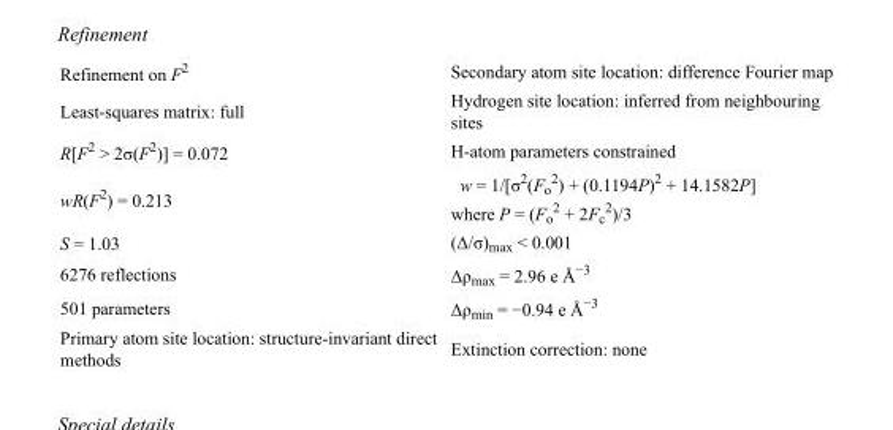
<table><tbody><tr><td>Refinement on F<sup>2</sup></td><td>Secondary atom site location: difference Fourier map</td></tr><tr><td>Least-squares matrix: full</td><td>Hydrogen site location: inferred from neighbouring sites</td></tr><tr><td>R[F<sup>2</sup> &gt; 2σ(F<sup>2</sup>)] = 0.072</td><td>H-atom parameters constrained</td></tr><tr><td>wR(F<sup>2</sup>) = 0.213</td><td>w = 1/[σ<sup>2</sup>(F<sub>o</sub> <sup>2</sup>) + (0.1194P)<sup>2</sup> + 14.1582P] where P = (F<sub>o</sub> <sup>2</sup> + 2F<sub>c</sub> <sup>2</sup>)/3</td></tr><tr><td>S = 1.03</td><td>(Δ/σ)<sub>max</sub> &lt; 0.001</td></tr><tr><td>6276 reflections</td><td>Δρ<sub>max</sub> = 2.96 e Å<sup>−3</sup></td></tr><tr><td>501 parameters</td><td>Δρ<sub>min</sub> = −0.94 e Å<sup>−3</sup></td></tr><tr><td>Primary atom site location: structure-invariant direct methods</td><td>Extinction correction: none</td></tr></tbody></table>